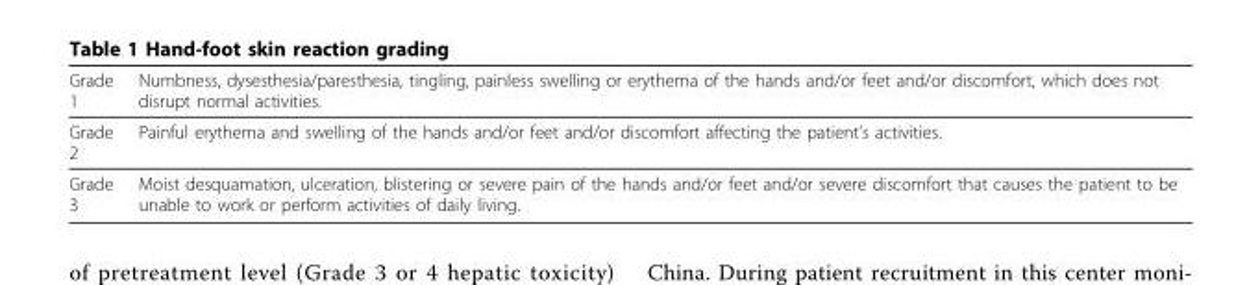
<table><thead><tr><td>Grade 1</td><td>Numbness, dysesthesia/paresthesia, tingling, painless swelling or erythema of the hands and/or feet and/or discomfort, which does not disrupt normal activities.</td></tr></thead><tbody><tr><td>Grade 2</td><td>Painful erythema and swelling of the hands and/or feet and/or discomfort affecting the patient’s activities.</td></tr><tr><td>Grade 3</td><td>Moist desquamation, ulceration, blistering or severe pain of the hands and/or feet and/or severe discomfort that causes the patient to be unable to work or perform activities of daily living.</td></tr></tbody></table>